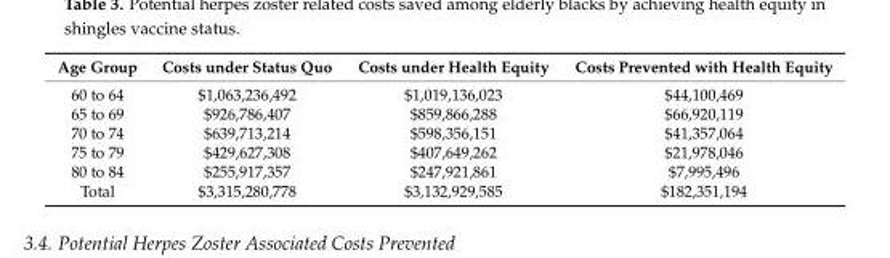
<table><thead><tr><td>Age Group</td><td>Costs under Status Quo</td><td>Costs under Health Equity</td><td>Costs Prevented with Health Equity</td></tr></thead><tbody><tr><td>60 to 64</td><td>$1,063,236,492</td><td>$1,019,136,023</td><td>$44,100,469</td></tr><tr><td>65 to 69</td><td>$926,786,407</td><td>$859,866,288</td><td>$66,920,119</td></tr><tr><td>70 to 74</td><td>$639,713,214</td><td>$598,356,151</td><td>$41,357,064</td></tr><tr><td>75 to 79</td><td>$429,627,308</td><td>$407,649,262</td><td>$21,978,046</td></tr><tr><td>80 to 84</td><td>$255,917,357</td><td>$247,921,861</td><td>$7,995,496</td></tr><tr><td>Total</td><td>$3,315,280,778</td><td>$3,132,929,585</td><td>$182,351,194</td></tr></tbody></table>